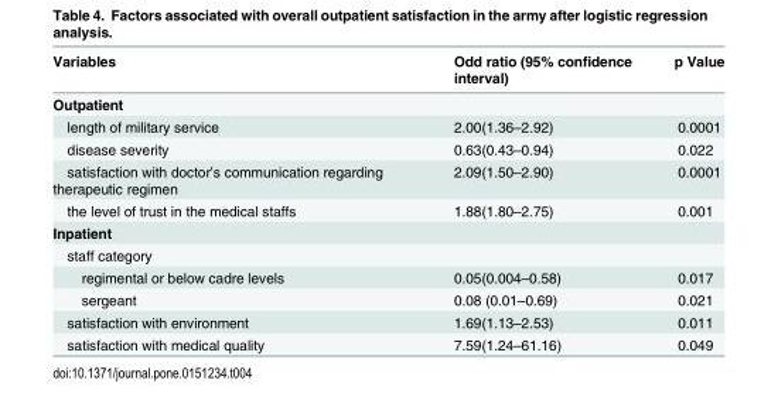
<table><thead><tr><td>Variables</td><td>Odd ratio (95% confidence interval)</td><td>p Value</td></tr></thead><tbody><tr><td colspan="3">Outpatient</td></tr><tr><td>length of military service</td><td>2.00(1.36–2.92)</td><td>0.0001</td></tr><tr><td>disease severity</td><td>0.63(0.43–0.94)</td><td>0.022</td></tr><tr><td>satisfaction with doctor’s communication regarding therapeutic regimen</td><td>2.09(1.50–2.90)</td><td>0.0001</td></tr><tr><td>the level of trust in the medical staffs</td><td>1.88(1.80–2.75)</td><td>0.001</td></tr><tr><td colspan="3">Inpatient</td></tr><tr><td colspan="3">staff category</td></tr><tr><td>regimental or below cadre levels</td><td>0.05(0.004–0.58)</td><td>0.017</td></tr><tr><td>sergeant</td><td>0.08 (0.01–0.69)</td><td>0.021</td></tr><tr><td>satisfaction with environment</td><td>1.69(1.13–2.53)</td><td>0.011</td></tr><tr><td>satisfaction with medical quality</td><td>7.59(1.24–61.16)</td><td>0.049</td></tr></tbody></table>